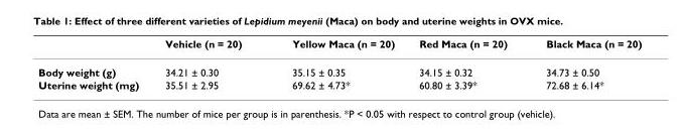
<table><thead><tr><td></td><td>Vehicle (n = 20)</td><td>Yellow Maca (n = 20)</td><td>Red Maca (n = 20)</td><td>Black Maca (n = 20)</td></tr></thead><tbody><tr><td>Body weight (g)</td><td>34.21 ± 0.30</td><td>35.15 ± 0.35</td><td>34.15 ± 0.32</td><td>34.73 ± 0.50</td></tr><tr><td>Uterine weight (mg)</td><td>35.51 ± 2.95</td><td>69.62 ± 4.73*</td><td>60.80 ± 3.39*</td><td>72.68 ± 6.14*</td></tr></tbody></table>